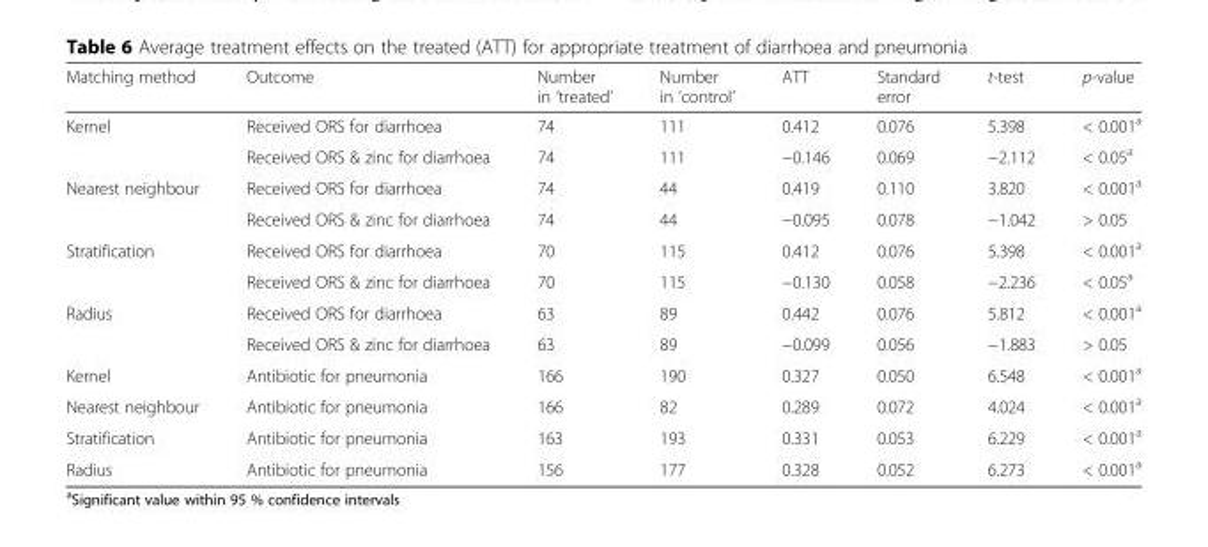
<table><thead><tr><td>Matching method</td><td>Outcome</td><td>Number in ‘treated’</td><td>Number in ‘control’</td><td>ATT</td><td>Standard error</td><td>t-test</td><td>p-value</td></tr></thead><tbody><tr><td rowspan="2">Kernel</td><td>Received ORS for diarrhoea</td><td>74</td><td>111</td><td>0.412</td><td>0.076</td><td>5.398</td><td>&lt; 0.001<sup>a</sup></td></tr><tr><td>Received ORS &amp; zinc for diarrhoea</td><td>74</td><td>111</td><td>−0.146</td><td>0.069</td><td>−2.112</td><td>&lt; 0.05<sup>a</sup></td></tr><tr><td rowspan="2">Nearest neighbour</td><td>Received ORS for diarrhoea</td><td>74</td><td>44</td><td>0.419</td><td>0.110</td><td>3.820</td><td>&lt; 0.001<sup>a</sup></td></tr><tr><td>Received ORS &amp; zinc for diarrhoea</td><td>74</td><td>44</td><td>−0.095</td><td>0.078</td><td>−1.042</td><td>&gt; 0.05</td></tr><tr><td rowspan="2">Stratification</td><td>Received ORS for diarrhoea</td><td>70</td><td>115</td><td>0.412</td><td>0.076</td><td>5.398</td><td>&lt; 0.001<sup>a</sup></td></tr><tr><td>Received ORS &amp; zinc for diarrhoea</td><td>70</td><td>115</td><td>−0.130</td><td>0.058</td><td>−2.236</td><td>&lt; 0.05<sup>a</sup></td></tr><tr><td rowspan="2">Radius</td><td>Received ORS for diarrhoea</td><td>63</td><td>89</td><td>0.442</td><td>0.076</td><td>5.812</td><td>&lt; 0.001<sup>a</sup></td></tr><tr><td>Received ORS &amp; zinc for diarrhoea</td><td>63</td><td>89</td><td>−0.099</td><td>0.056</td><td>−1.883</td><td>&gt; 0.05</td></tr><tr><td>Kernel</td><td>Antibiotic for pneumonia</td><td>166</td><td>190</td><td>0.327</td><td>0.050</td><td>6.548</td><td>&lt; 0.001<sup>a</sup></td></tr><tr><td>Nearest neighbour</td><td>Antibiotic for pneumonia</td><td>166</td><td>82</td><td>0.289</td><td>0.072</td><td>4.024</td><td>&lt; 0.001<sup>a</sup></td></tr><tr><td>Stratification</td><td>Antibiotic for pneumonia</td><td>163</td><td>193</td><td>0.331</td><td>0.053</td><td>6.229</td><td>&lt; 0.001<sup>a</sup></td></tr><tr><td>Radius</td><td>Antibiotic for pneumonia</td><td>156</td><td>177</td><td>0.328</td><td>0.052</td><td>6.273</td><td>&lt; 0.001<sup>a</sup></td></tr></tbody></table>